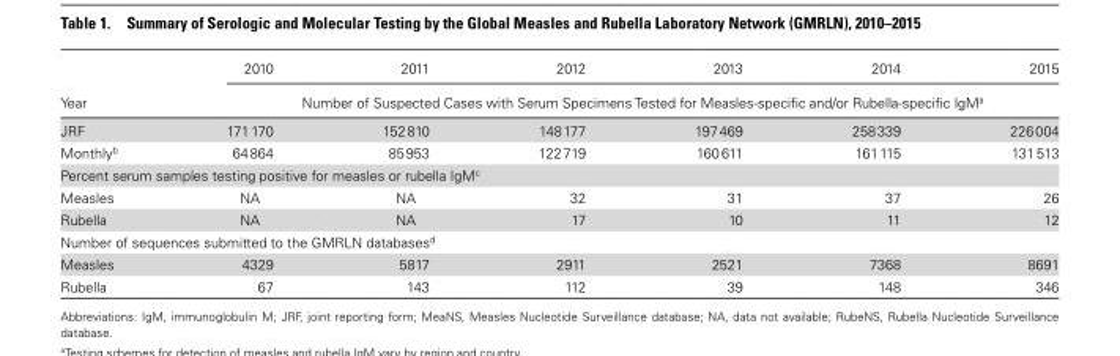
<table><thead><tr><td rowspan="2">Year</td><td>2010</td><td>2011</td><td>2012</td><td>2013</td><td>2014</td><td>2015</td></tr><tr><td colspan="6">Number of Suspected Cases with Serum Specimens Tested for Measles-specific and/or Rubella-specific IgM<sup>a</sup></td></tr></thead><tbody><tr><td>JRF</td><td>171 170</td><td>152 810</td><td>148 177</td><td>197 469</td><td>258 339</td><td>226 004</td></tr><tr><td>Monthly<sup>b</sup></td><td>64 864</td><td>85 953</td><td>122 719</td><td>160 611</td><td>161 115</td><td>131 513</td></tr><tr><td colspan="7">Percent serum samples testing positive for measles or rubella IgM<sup>c</sup></td></tr><tr><td>Measles</td><td>NA</td><td>NA</td><td>32</td><td>31</td><td>37</td><td>26</td></tr><tr><td>Rubella</td><td>NA</td><td>NA</td><td>17</td><td>10</td><td>11</td><td>12</td></tr><tr><td colspan="7">Number of sequences submitted to the GMRLN databases<sup>d</sup></td></tr><tr><td>Measles</td><td>4329</td><td>5817</td><td>2911</td><td>2521</td><td>7368</td><td>8691</td></tr><tr><td>Rubella</td><td>67</td><td>143</td><td>112</td><td>39</td><td>148</td><td>346</td></tr></tbody></table>